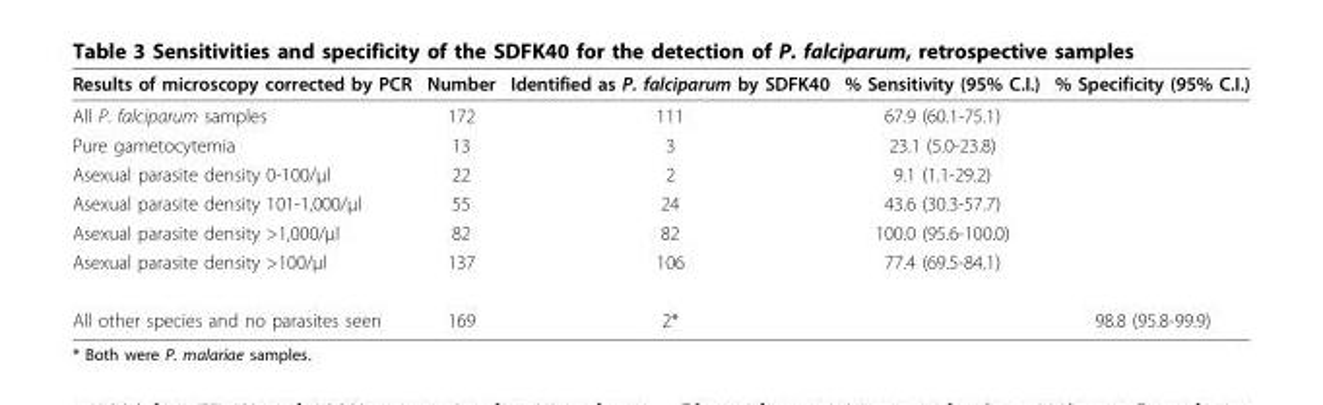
<table><tbody><tr><td>Results of microscopy corrected by PCR</td><td>Number</td><td>Identified as P. falciparum by SDFK40</td><td>% Sensitivity (95% C.I.)</td><td>% Specificity (95% C.I.)</td></tr><tr><td>All P. falciparum samples</td><td>172</td><td>111</td><td>67.9 (60.1-75.1)</td><td></td></tr><tr><td>Pure gametocytemia</td><td>13</td><td>3</td><td>23.1 (5.0-23.8)</td><td></td></tr><tr><td>Asexual parasite density 0-100/μl</td><td>22</td><td>2</td><td>9.1 (1.1-29.2)</td><td></td></tr><tr><td>Asexual parasite density 101-1,000/μl</td><td>55</td><td>24</td><td>43.6 (30.3-57.7)</td><td></td></tr><tr><td>Asexual parasite density &gt;1,000/μl</td><td>82</td><td>82</td><td>100.0 (95.6-100.0)</td><td></td></tr><tr><td>Asexual parasite density &gt;100/μl</td><td>137</td><td>106</td><td>77.4 (69.5-84.1)</td><td></td></tr><tr><td>All other species and no parasites seen</td><td>169</td><td>2*</td><td></td><td>98.8 (95.8-99.9)</td></tr></tbody></table>